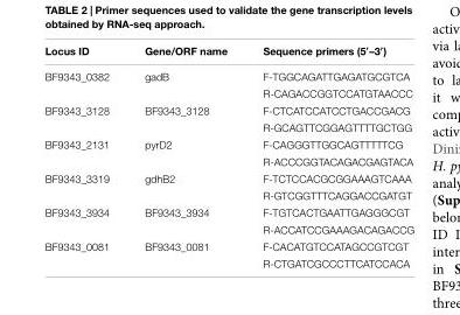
<table><thead><tr><td>Locus ID</td><td>Gene/ORF name</td><td>Sequence primers (5′–3′)</td></tr></thead><tbody><tr><td rowspan="2">BF9343_0382</td><td>gadB</td><td>F-TGGCAGATTGAGATGCGTCA</td></tr><tr><td></td><td>R-CAGACCGGTCCATGTAACCC</td></tr><tr><td rowspan="2">BF9343_3128</td><td>BF9343_3128</td><td>F-CTCATCCATCCTGACCGACG</td></tr><tr><td></td><td>R-GCAGTTCGGAGTTTTGCTGG</td></tr><tr><td rowspan="2">BF9343_2131</td><td>pyrD2</td><td>F-CAGGGTTGGCAGTTTTTCG</td></tr><tr><td></td><td>R-ACCCGGTACAGACGAGTACA</td></tr><tr><td rowspan="2">BF9343_3319</td><td>gdhB2</td><td>F-TCTCCACGCGGAAAGTCAAA</td></tr><tr><td></td><td>R-GTCGGTTTCAGGACCGATGT</td></tr><tr><td rowspan="2">BF9343_3934</td><td>BF9343_3934</td><td>F-TGTCACTGAATTGAGGGCGT</td></tr><tr><td></td><td>R-ACCATCCGAAAGACAGACCG</td></tr><tr><td rowspan="2">BF9343_0081</td><td>BF9343_0081</td><td>F-CACATGTCCATAGCCGTCGT</td></tr><tr><td></td><td>R-CTGATCGCCCTTCATCCACA</td></tr></tbody></table>